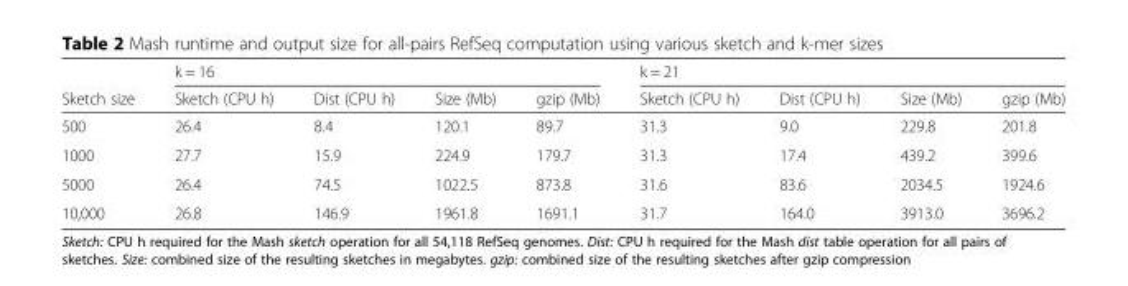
<table><thead><tr><td rowspan="2">Sketch size</td><td colspan="4">k = 16</td><td colspan="4">k = 21</td></tr><tr><td>Sketch (CPU h)</td><td>Dist (CPU h)</td><td>Size (Mb)</td><td>gzip (Mb)</td><td>Sketch (CPU h)</td><td>Dist (CPU h)</td><td>Size (Mb)</td><td>gzip (Mb)</td></tr></thead><tbody><tr><td>500</td><td>26.4</td><td>8.4</td><td>120.1</td><td>89.7</td><td>31.3</td><td>9.0</td><td>229.8</td><td>201.8</td></tr><tr><td>1000</td><td>27.7</td><td>15.9</td><td>224.9</td><td>179.7</td><td>31.3</td><td>17.4</td><td>439.2</td><td>399.6</td></tr><tr><td>5000</td><td>26.4</td><td>74.5</td><td>1022.5</td><td>873.8</td><td>31.6</td><td>83.6</td><td>2034.5</td><td>1924.6</td></tr><tr><td>10,000</td><td>26.8</td><td>146.9</td><td>1961.8</td><td>1691.1</td><td>31.7</td><td>164.0</td><td>3913.0</td><td>3696.2</td></tr></tbody></table>